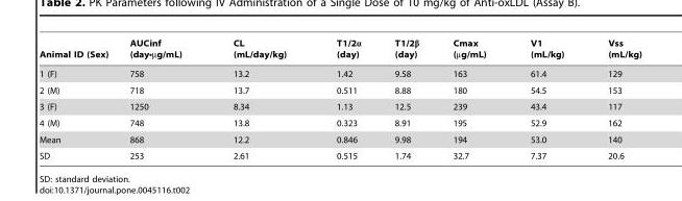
<table><thead><tr><td>Animal ID (Sex)</td><td>AUCinf (day•µg/mL)</td><td>CL (mL/day/kg)</td><td>T1/2α (day)</td><td>T1/2β (day)</td><td>Cmax (µg/mL)</td><td>V1 (mL/kg)</td><td>Vss (mL/kg)</td></tr></thead><tbody><tr><td>1 (F)</td><td>758</td><td>13.2</td><td>1.42</td><td>9.58</td><td>163</td><td>61.4</td><td>129</td></tr><tr><td>2 (M)</td><td>718</td><td>13.7</td><td>0.511</td><td>8.88</td><td>180</td><td>54.5</td><td>153</td></tr><tr><td>3 (F)</td><td>1250</td><td>8.34</td><td>1.13</td><td>12.5</td><td>239</td><td>43.4</td><td>117</td></tr><tr><td>4 (M)</td><td>748</td><td>13.8</td><td>0.323</td><td>8.91</td><td>195</td><td>52.9</td><td>162</td></tr><tr><td>Mean</td><td>868</td><td>12.2</td><td>0.846</td><td>9.98</td><td>194</td><td>53.0</td><td>140</td></tr><tr><td>SD</td><td>253</td><td>2.61</td><td>0.515</td><td>1.74</td><td>32.7</td><td>7.37</td><td>20.6</td></tr></tbody></table>